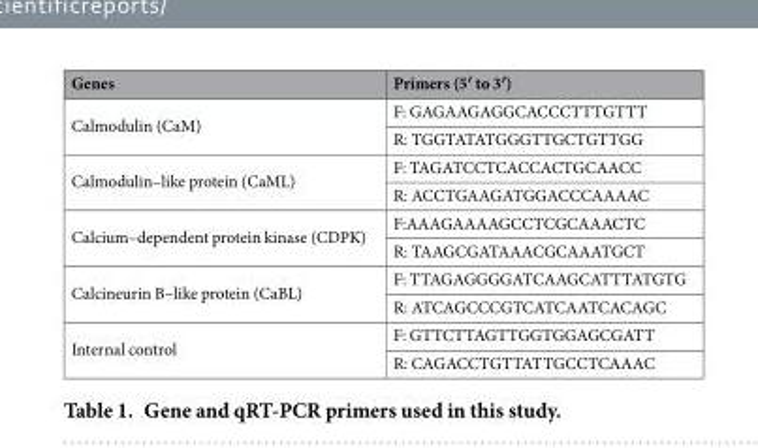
<table><thead><tr><td>Genes</td><td>Primers (5′ to 3′)</td></tr></thead><tbody><tr><td rowspan="2">Calmodulin (CaM)</td><td>F: GAGAAGAGGCACCCTTTGTTT</td></tr><tr><td>R: TGGTATATGGGTTGCTGTTGG</td></tr><tr><td rowspan="2">Calmodulin–like protein (CaML)</td><td>F: TAGATCCTCACCACTGCAACC</td></tr><tr><td>R: ACCTGAAGATGGACCCAAAAC</td></tr><tr><td rowspan="2">Calcium–dependent protein kinase (CDPK)</td><td>F:AAAGAAAAGCCTCGCAAACTC</td></tr><tr><td>R: TAAGCGATAAACGCAAATGCT</td></tr><tr><td rowspan="2">Calcineurin B–like protein (CaBL)</td><td>F: TTAGAGGGGATCAAGCATTTATGTG</td></tr><tr><td>R: ATCAGCCCGTCATCAATCACAGC</td></tr><tr><td rowspan="2">Internal control</td><td>F: GTTCTTAGTTGGTGGAGCGATT</td></tr><tr><td>R: CAGACCTGTTATTGCCTCAAAC</td></tr></tbody></table>